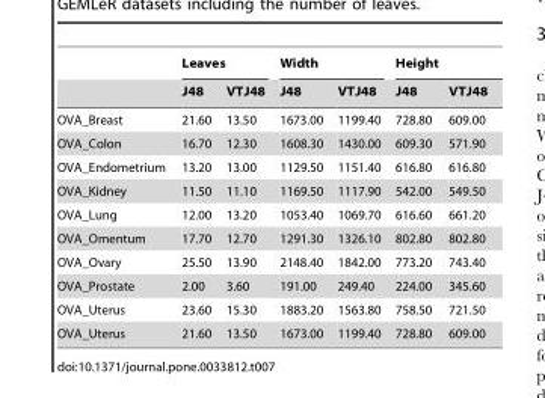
<table><thead><tr><td rowspan="2"></td><td colspan="2">Leaves</td><td colspan="2">Width</td><td colspan="2">Height</td></tr><tr><td>J48</td><td>VTJ48</td><td>J48</td><td>VTJ48</td><td>J48</td><td>VTJ48</td></tr></thead><tbody><tr><td>OVA_Breast</td><td>21.60</td><td>13.50</td><td>1673.00</td><td>1199.40</td><td>728.80</td><td>609.00</td></tr><tr><td>OVA_Colon</td><td>16.70</td><td>12.30</td><td>1608.30</td><td>1430.00</td><td>609.30</td><td>571.90</td></tr><tr><td>OVA_Endometrium</td><td>13.20</td><td>13.00</td><td>1129.50</td><td>1151.40</td><td>616.80</td><td>616.80</td></tr><tr><td>OVA_Kidney</td><td>11.50</td><td>11.10</td><td>1169.50</td><td>1117.90</td><td>542.00</td><td>549.50</td></tr><tr><td>OVA_Lung</td><td>12.00</td><td>13.20</td><td>1053.40</td><td>1069.70</td><td>616.60</td><td>661.20</td></tr><tr><td>OVA_Omentum</td><td>17.70</td><td>12.70</td><td>1291.30</td><td>1326.10</td><td>802.80</td><td>802.80</td></tr><tr><td>OVA_Ovary</td><td>25.50</td><td>13.90</td><td>2148.40</td><td>1842.00</td><td>773.20</td><td>743.40</td></tr><tr><td>OVA_Prostate</td><td>2.00</td><td>3.60</td><td>191.00</td><td>249.40</td><td>224.00</td><td>345.60</td></tr><tr><td>OVA_Uterus</td><td>23.60</td><td>15.30</td><td>1883.20</td><td>1563.80</td><td>758.50</td><td>721.50</td></tr><tr><td>OVA_Uterus</td><td>21.60</td><td>13.50</td><td>1673.00</td><td>1199.40</td><td>728.80</td><td>609.00</td></tr></tbody></table>